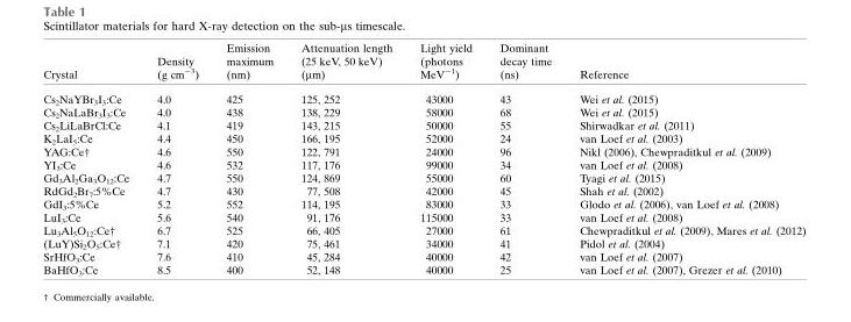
<table><thead><tr><td>Crystal</td><td>Density (g cm<sup>−3</sup>)</td><td>Emission maximum (nm)</td><td>Attenuation length (25 keV, 50 keV) (µm)</td><td>Light yield (photons MeV<sup>−1</sup>)</td><td>Dominant decay time (ns)</td><td>Reference</td></tr></thead><tbody><tr><td>Cs<sub>2</sub>NaYBr<sub>3</sub>I<sub>3</sub>:Ce</td><td>4.0</td><td>425</td><td>125, 252</td><td>43000</td><td>43</td><td>Wei et al. (2015)</td></tr><tr><td>Cs<sub>2</sub>NaLaBr<sub>3</sub>I<sub>3</sub>:Ce</td><td>4.0</td><td>438</td><td>138, 229</td><td>58000</td><td>68</td><td>Wei et al. (2015)</td></tr><tr><td>Cs<sub>2</sub>LiLaBrCl:Ce</td><td>4.1</td><td>419</td><td>143, 215</td><td>50000</td><td>55</td><td>Shirwadkar et al. (2011)</td></tr><tr><td>K<sub>2</sub>LaI<sub>5</sub>:Ce</td><td>4.4</td><td>450</td><td>166, 195</td><td>52000</td><td>24</td><td>van Loef et al. (2003)</td></tr><tr><td>YAG:Ce†</td><td>4.6</td><td>550</td><td>122, 791</td><td>24000</td><td>96</td><td>Nikl (2006), Chewpraditkul et al. (2009)</td></tr><tr><td>YI<sub>3</sub>:Ce</td><td>4.6</td><td>532</td><td>117, 176</td><td>99000</td><td>34</td><td>van Loef et al. (2008)</td></tr><tr><td>Gd<sub>3</sub>Al<sub>2</sub>Ga<sub>3</sub>O<sub>12</sub>:Ce</td><td>4.7</td><td>550</td><td>124, 869</td><td>55000</td><td>60</td><td>Tyagi et al. (2015)</td></tr><tr><td>RdGd<sub>2</sub>Br<sub>7</sub>:5%Ce</td><td>4.7</td><td>430</td><td>77, 508</td><td>42000</td><td>45</td><td>Shah et al. (2002)</td></tr><tr><td>GdI<sub>3</sub>:5%Ce</td><td>5.2</td><td>552</td><td>114, 195</td><td>83000</td><td>33</td><td>Glodo et al. (2006), van Loef et al. (2008)</td></tr><tr><td>LuI<sub>3</sub>:Ce</td><td>5.6</td><td>540</td><td>91, 176</td><td>115000</td><td>33</td><td>van Loef et al. (2008)</td></tr><tr><td>Lu<sub>3</sub>Al<sub>5</sub>O<sub>12</sub>:Ce†</td><td>6.7</td><td>525</td><td>66, 405</td><td>27000</td><td>61</td><td>Chewpraditkul et al. (2009), Mares et al. (2012)</td></tr><tr><td>(LuY)Si<sub>2</sub>O<sub>5</sub>:Ce†</td><td>7.1</td><td>420</td><td>75, 461</td><td>34000</td><td>41</td><td>Pidol et al. (2004)</td></tr><tr><td>SrHfO<sub>3</sub>:Ce</td><td>7.6</td><td>410</td><td>45, 284</td><td>40000</td><td>42</td><td>van Loef et al. (2007)</td></tr><tr><td>BaHfO<sub>3</sub>:Ce</td><td>8.5</td><td>400</td><td>52, 148</td><td>40000</td><td>25</td><td>van Loef et al. (2007), Grezer et al. (2010)</td></tr></tbody></table>